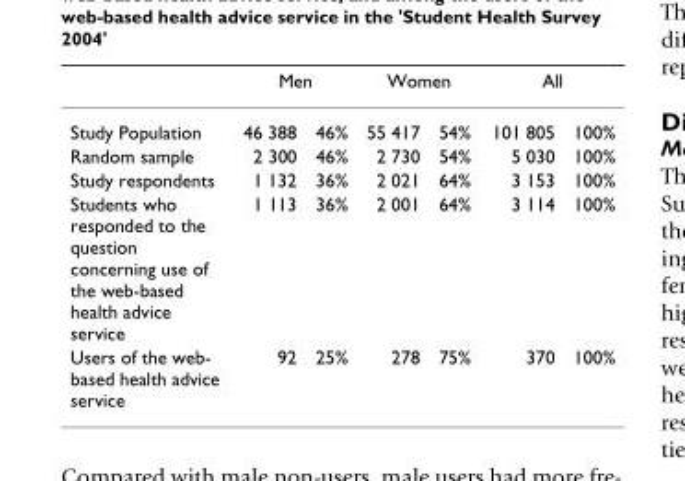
<table><thead><tr><td rowspan="2">Study Population</td><td colspan="2">Men</td><td colspan="2">Women</td><td colspan="2">All</td></tr><tr><td>46 388</td><td>46%</td><td>55 417</td><td>54%</td><td>101 805</td><td>100%</td></tr></thead><tbody><tr><td>Random sample</td><td>2 300</td><td>46%</td><td>2 730</td><td>54%</td><td>5 030</td><td>100%</td></tr><tr><td>Study respondents</td><td>1 132</td><td>36%</td><td>2 021</td><td>64%</td><td>3 153</td><td>100%</td></tr><tr><td>Students who responded to the question concerning use of the web-based health advice service</td><td>1 113</td><td>36%</td><td>2 001</td><td>64%</td><td>3 114</td><td>100%</td></tr><tr><td>Users of the web- based health advice service</td><td>92</td><td>25%</td><td>278</td><td>75%</td><td>370</td><td>100%</td></tr></tbody></table>